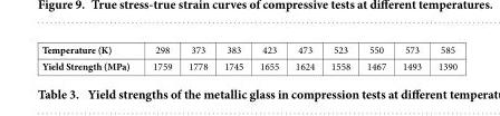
<table><tbody><tr><td>Temperature (K)</td><td>298</td><td>373</td><td>383</td><td>423</td><td>473</td><td>523</td><td>550</td><td>573</td><td>585</td></tr><tr><td>Yield Strength (MPa)</td><td>1759</td><td>1778</td><td>1745</td><td>1655</td><td>1624</td><td>1558</td><td>1467</td><td>1493</td><td>1390</td></tr></tbody></table>